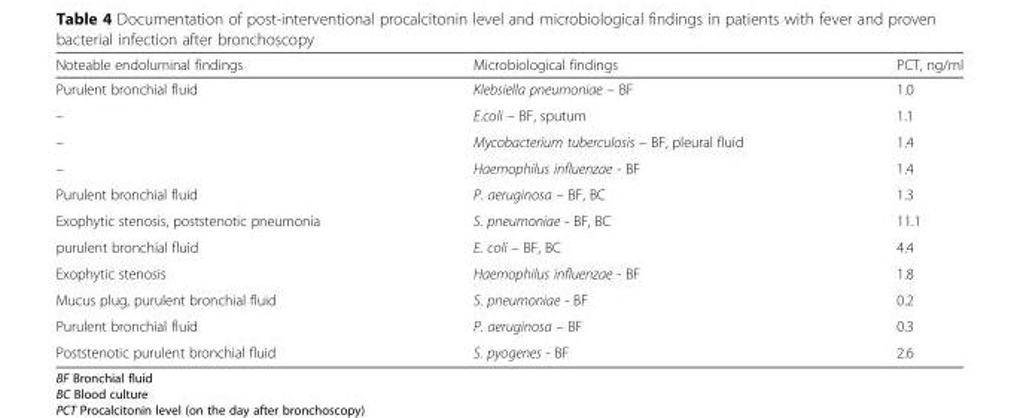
<table><thead><tr><td>Noteable endoluminal findings</td><td>Microbiological findings</td><td>PCT, ng/ml</td></tr></thead><tbody><tr><td>Purulent bronchial fluid</td><td>Klebsiella pneumoniae – BF</td><td>1.0</td></tr><tr><td>–</td><td>E.coli – BF, sputum</td><td>1.1</td></tr><tr><td>–</td><td>Mycobacterium tuberculosis – BF, pleural fluid</td><td>1.4</td></tr><tr><td>–</td><td>Haemophilus influenzae - BF</td><td>1.4</td></tr><tr><td>Purulent bronchial fluid</td><td>P. aeruginosa – BF, BC</td><td>1.3</td></tr><tr><td>Exophytic stenosis, poststenotic pneumonia</td><td>S. pneumoniae - BF, BC</td><td>11.1</td></tr><tr><td>purulent bronchial fluid</td><td>E. coli – BF, BC</td><td>4.4</td></tr><tr><td>Exophytic stenosis</td><td>Haemophilus influenzae - BF</td><td>1.8</td></tr><tr><td>Mucus plug, purulent bronchial fluid</td><td>S. pneumoniae - BF</td><td>0.2</td></tr><tr><td>Purulent bronchial fluid</td><td>P. aeruginosa – BF</td><td>0.3</td></tr><tr><td>Poststenotic purulent bronchial fluid</td><td>S. pyogenes - BF</td><td>2.6</td></tr></tbody></table>